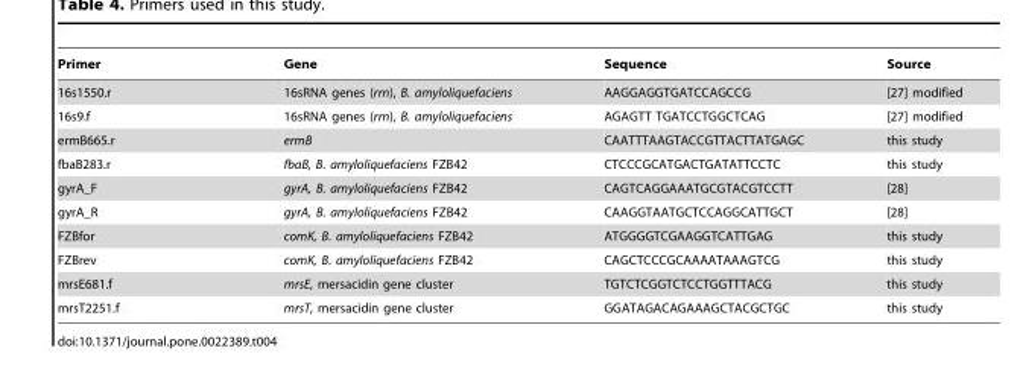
<table><thead><tr><td>Primer</td><td>Gene</td><td>Sequence</td><td>Source</td></tr></thead><tbody><tr><td>16s1550.r</td><td>16sRNA genes (rrn), B. amyloliquefaciens</td><td>AAGGAGGTGATCCAGCCG</td><td>[27] modified</td></tr><tr><td>16s9.f</td><td>16sRNA genes (rrn), B. amyloliquefaciens</td><td>AGAGTT TGATCCTGGCTCAG</td><td>[27] modified</td></tr><tr><td>ermB665.r</td><td>ermB</td><td>CAATTTAAGTACCGTTACTTATGAGC</td><td>this study</td></tr><tr><td>fbaB283.r</td><td>fbaB, B. amyloliquefaciens FZB42</td><td>CTCCCGCATGACTGATATTCCTC</td><td>this study</td></tr><tr><td>gyrA_F</td><td>gyrA, B. amyloliquefaciens FZB42</td><td>CAGTCAGGAAATGCGTACGTCCTT</td><td>[28]</td></tr><tr><td>gyrA_R</td><td>gyrA, B. amyloliquefaciens FZB42</td><td>CAAGGTAATGCTCCAGGCATTGCT</td><td>[28]</td></tr><tr><td>FZBfor</td><td>comK, B. amyloliquefaciens FZB42</td><td>ATGGGGTCGAAGGTCATTGAG</td><td>this study</td></tr><tr><td>FZBrev</td><td>comK, B. amyloliquefaciens FZB42</td><td>CAGCTCCCGCAAAATAAAGTCG</td><td>this study</td></tr><tr><td>mrsE681.f</td><td>mrsE, mersacidin gene cluster</td><td>TGTCTCGGTCTCCTGGTTTACG</td><td>this study</td></tr><tr><td>mrsT2251.f</td><td>mrsT, mersacidin gene cluster</td><td>GGATAGACAGAAAGCTACGCTGC</td><td>this study</td></tr></tbody></table>